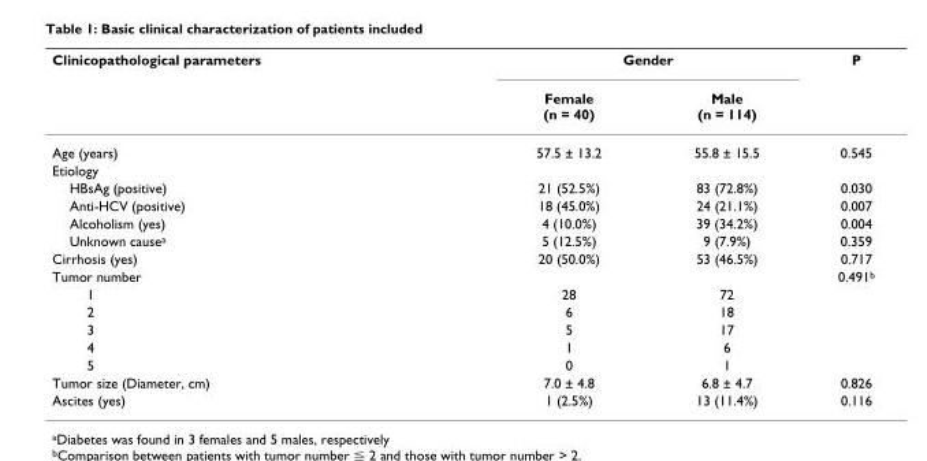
<table><thead><tr><td rowspan="2">Clinicopathological parameters</td><td colspan="2">Gender</td><td rowspan="2">P</td></tr><tr><td>Female (n = 40)</td><td>Male (n = 114)</td></tr></thead><tbody><tr><td>Age (years)</td><td>57.5 ± 13.2</td><td>55.8 ± 15.5</td><td>0.545</td></tr><tr><td colspan="4">Etiology</td></tr><tr><td>HBsAg (positive)</td><td>21 (52.5%)</td><td>83 (72.8%)</td><td>0.030</td></tr><tr><td>Anti-HCV (positive)</td><td>18 (45.0%)</td><td>24 (21.1%)</td><td>0.007</td></tr><tr><td>Alcoholism (yes)</td><td>4 (10.0%)</td><td>39 (34.2%)</td><td>0.004</td></tr><tr><td>Unknown cause<sup>a</sup></td><td>5 (12.5%)</td><td>9 (7.9%)</td><td>0.359</td></tr><tr><td>Cirrhosis (yes)</td><td>20 (50.0%)</td><td>53 (46.5%)</td><td>0.717</td></tr><tr><td>Tumor number</td><td></td><td></td><td>0.491<sup>b</sup></td></tr><tr><td>1</td><td>28</td><td>72</td><td></td></tr><tr><td>2</td><td>6</td><td>18</td><td></td></tr><tr><td>3</td><td>5</td><td>17</td><td></td></tr><tr><td>4</td><td>1</td><td>6</td><td></td></tr><tr><td>5</td><td>0</td><td>1</td><td></td></tr><tr><td>Tumor size (Diameter, cm)</td><td>7.0 ± 4.8</td><td>6.8 ± 4.7</td><td>0.826</td></tr><tr><td>Ascites (yes)</td><td>1 (2.5%)</td><td>13 (11.4%)</td><td>0.116</td></tr></tbody></table>